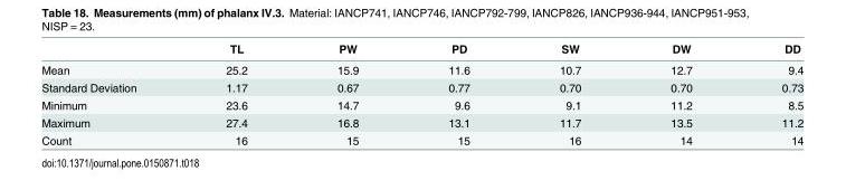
<table><thead><tr><td></td><td>TL</td><td>PW</td><td>PD</td><td>SW</td><td>DW</td><td>DD</td></tr></thead><tbody><tr><td>Mean</td><td>25.2</td><td>15.9</td><td>11.6</td><td>10.7</td><td>12.7</td><td>9.4</td></tr><tr><td>Standard Deviation</td><td>1.17</td><td>0.67</td><td>0.77</td><td>0.70</td><td>0.70</td><td>0.73</td></tr><tr><td>Minimum</td><td>23.6</td><td>14.7</td><td>9.6</td><td>9.1</td><td>11.2</td><td>8.5</td></tr><tr><td>Maximum</td><td>27.4</td><td>16.8</td><td>13.1</td><td>11.7</td><td>13.5</td><td>11.2</td></tr><tr><td>Count</td><td>16</td><td>15</td><td>15</td><td>16</td><td>14</td><td>14</td></tr></tbody></table>